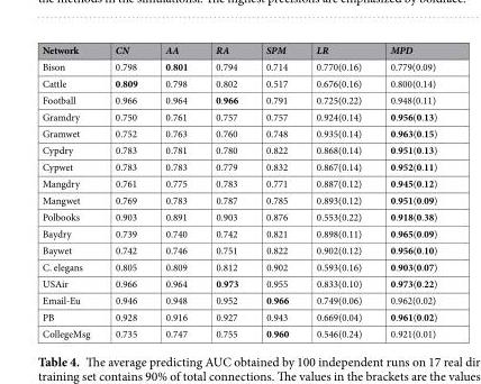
<table><thead><tr><td>Network</td><td>CN</td><td>AA</td><td>RA</td><td>SPM</td><td>LR</td><td>MPD</td></tr></thead><tbody><tr><td>Bison</td><td>0.798</td><td>0.801</td><td>0.794</td><td>0.714</td><td>0.770(0.16)</td><td>0.779(0.09)</td></tr><tr><td>Cattle</td><td>0.809</td><td>0.798</td><td>0.802</td><td>0.517</td><td>0.676(0.16)</td><td>0.800(0.14)</td></tr><tr><td>Football</td><td>0.966</td><td>0.964</td><td>0.966</td><td>0.791</td><td>0.725(0.22)</td><td>0.948(0.11)</td></tr><tr><td>Gramdry</td><td>0.750</td><td>0.761</td><td>0.757</td><td>0.757</td><td>0.924(0.14)</td><td>0.956(0.13)</td></tr><tr><td>Gramwet</td><td>0.752</td><td>0.763</td><td>0.760</td><td>0.748</td><td>0.935(0.14)</td><td>0.963(0.15)</td></tr><tr><td>Cypdry</td><td>0.783</td><td>0.781</td><td>0.780</td><td>0.822</td><td>0.868(0.14)</td><td>0.951(0.13)</td></tr><tr><td>Cypwet</td><td>0.783</td><td>0.783</td><td>0.779</td><td>0.832</td><td>0.867(0.14)</td><td>0.952(0.11)</td></tr><tr><td>Mangdry</td><td>0.761</td><td>0.775</td><td>0.783</td><td>0.771</td><td>0.887(0.12)</td><td>0.945(0.12)</td></tr><tr><td>Mangwet</td><td>0.769</td><td>0.783</td><td>0.787</td><td>0.785</td><td>0.893(0.12)</td><td>0.951(0.09)</td></tr><tr><td>Polbooks</td><td>0.903</td><td>0.891</td><td>0.903</td><td>0.876</td><td>0.553(0.22)</td><td>0.918(0.38)</td></tr><tr><td>Baydry</td><td>0.739</td><td>0.740</td><td>0.742</td><td>0.821</td><td>0.898(0.11)</td><td>0.965(0.09)</td></tr><tr><td>Baywet</td><td>0.742</td><td>0.746</td><td>0.751</td><td>0.822</td><td>0.902(0.12)</td><td>0.956(0.10)</td></tr><tr><td>C. elegans</td><td>0.805</td><td>0.809</td><td>0.812</td><td>0.902</td><td>0.593(0.16)</td><td>0.903(0.07)</td></tr><tr><td>USAir</td><td>0.966</td><td>0.964</td><td>0.973</td><td>0.955</td><td>0.833(0.10)</td><td>0.973(0.22)</td></tr><tr><td>Email-Eu</td><td>0.946</td><td>0.948</td><td>0.952</td><td>0.966</td><td>0.749(0.06)</td><td>0.962(0.02)</td></tr><tr><td>PB</td><td>0.928</td><td>0.916</td><td>0.927</td><td>0.943</td><td>0.669(0.04)</td><td>0.961(0.02)</td></tr><tr><td>CollegeMsg</td><td>0.735</td><td>0.747</td><td>0.755</td><td>0.960</td><td>0.546(0.24)</td><td>0.921(0.01)</td></tr></tbody></table>